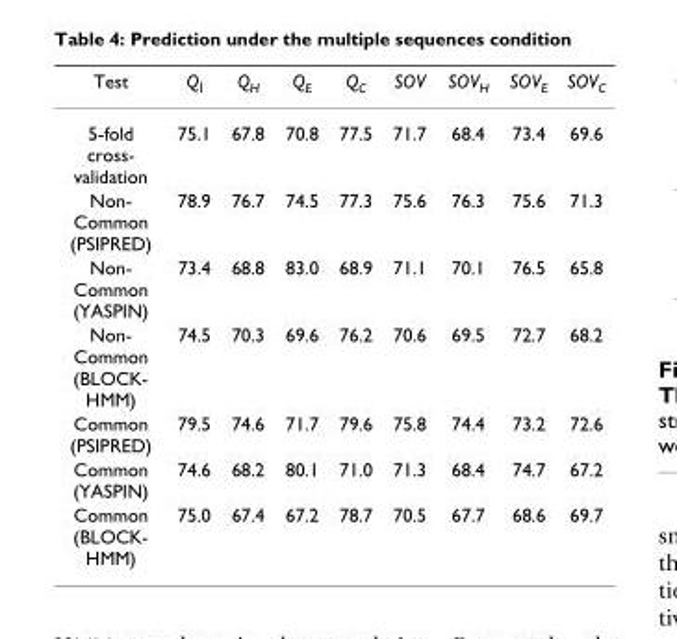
<table><thead><tr><td>Test</td><td>Q<sub>Ì</sub></td><td>Q<sub>H</sub></td><td>Q<sub>E</sub></td><td>Q<sub>C</sub></td><td>SOV</td><td>SOV<sub>H</sub></td><td>SOV<sub>E</sub></td><td>SOV<sub>C</sub></td></tr></thead><tbody><tr><td>5-fold cross- validation</td><td>75.1</td><td>67.8</td><td>70.8</td><td>77.5</td><td>71.7</td><td>68.4</td><td>73.4</td><td>69.6</td></tr><tr><td>Non- Common (PSIPRED)</td><td>78.9</td><td>76.7</td><td>74.5</td><td>77.3</td><td>75.6</td><td>76.3</td><td>75.6</td><td>71.3</td></tr><tr><td>Non- Common (YASPIN)</td><td>73.4</td><td>68.8</td><td>83.0</td><td>68.9</td><td>71.1</td><td>70.1</td><td>76.5</td><td>65.8</td></tr><tr><td>Non- Common (BLOCK- HMM)</td><td>74.5</td><td>70.3</td><td>69.6</td><td>76.2</td><td>70.6</td><td>69.5</td><td>72.7</td><td>68.2</td></tr><tr><td>Common (PSIPRED)</td><td>79.5</td><td>74.6</td><td>71.7</td><td>79.6</td><td>75.8</td><td>74.4</td><td>73.2</td><td>72.6</td></tr><tr><td>Common (YASPIN)</td><td>74.6</td><td>68.2</td><td>80.1</td><td>71.0</td><td>71.3</td><td>68.4</td><td>74.7</td><td>67.2</td></tr><tr><td>Common (BLOCK- HMM)</td><td>75.0</td><td>67.4</td><td>67.2</td><td>78.7</td><td>70.5</td><td>67.7</td><td>68.6</td><td>69.7</td></tr></tbody></table>